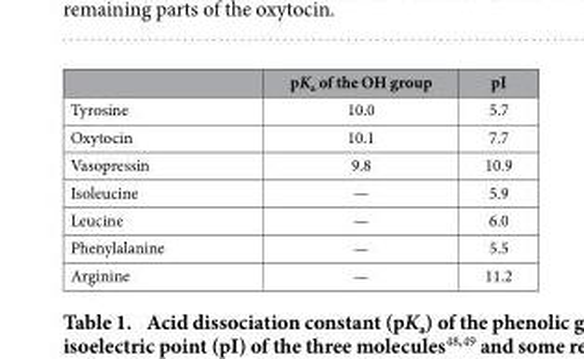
<table><thead><tr><td></td><td>pK<sub>a</sub> of the OH group</td><td>pI</td></tr></thead><tbody><tr><td>Tyrosine</td><td>10.0</td><td>5.7</td></tr><tr><td>Oxytocin</td><td>10.1</td><td>7.7</td></tr><tr><td>Vasopressin</td><td>9.8</td><td>10.9</td></tr><tr><td>Isoleucine</td><td>—</td><td>5.9</td></tr><tr><td>Leucine</td><td>—</td><td>6.0</td></tr><tr><td>Phenylalanine</td><td>—</td><td>5.5</td></tr><tr><td>Arginine</td><td>—</td><td>11.2</td></tr></tbody></table>